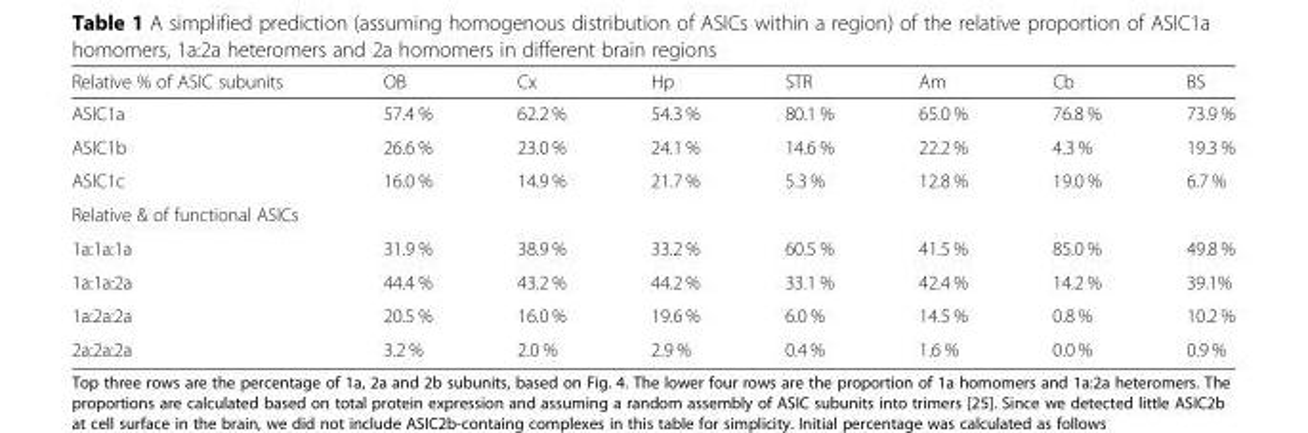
<table><thead><tr><td>Relative % of ASIC subunits</td><td>OB</td><td>Cx</td><td>Hp</td><td>STR</td><td>Am</td><td>Cb</td><td>BS</td></tr></thead><tbody><tr><td>ASIC1a</td><td>57.4 %</td><td>62.2 %</td><td>54.3 %</td><td>80.1 %</td><td>65.0 %</td><td>76.8 %</td><td>73.9 %</td></tr><tr><td>ASIC1b</td><td>26.6 %</td><td>23.0 %</td><td>24.1 %</td><td>14.6 %</td><td>22.2 %</td><td>4.3 %</td><td>19.3 %</td></tr><tr><td>ASIC1c</td><td>16.0 %</td><td>14.9 %</td><td>21.7 %</td><td>5.3 %</td><td>12.8 %</td><td>19.0 %</td><td>6.7 %</td></tr><tr><td colspan="8">Relative &amp; of functional ASICs</td></tr><tr><td>1a:1a:1a</td><td>31.9 %</td><td>38.9 %</td><td>33.2 %</td><td>60.5 %</td><td>41.5 %</td><td>85.0 %</td><td>49.8 %</td></tr><tr><td>1a:1a:2a</td><td>44.4 %</td><td>43.2 %</td><td>44.2 %</td><td>33.1 %</td><td>42.4 %</td><td>14.2 %</td><td>39.1%</td></tr><tr><td>1a:2a:2a</td><td>20.5 %</td><td>16.0 %</td><td>19.6 %</td><td>6.0 %</td><td>14.5 %</td><td>0.8 %</td><td>10.2 %</td></tr><tr><td>2a:2a:2a</td><td>3.2 %</td><td>2.0 %</td><td>2.9 %</td><td>0.4 %</td><td>1.6 %</td><td>0.0 %</td><td>0.9 %</td></tr></tbody></table>